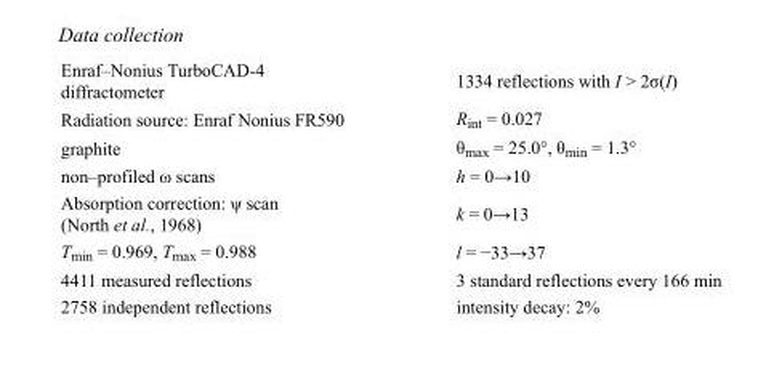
<table><tbody><tr><td>Enraf–Nonius TurboCAD-4 diffractometer</td><td>1334 reflections with I &gt; 2σ(I)</td></tr><tr><td>Radiation source: Enraf Nonius FR590</td><td>R<sub>int</sub> = 0.027</td></tr><tr><td>graphite</td><td>θ<sub>max</sub> = 25.0°, θ<sub>min</sub> = 1.3°</td></tr><tr><td>non–profiled ω scans</td><td>h = 0→10</td></tr><tr><td>Absorption correction: ψ scan (North et al., 1968)</td><td>k = 0→13</td></tr><tr><td>T<sub>min</sub> = 0.969, T<sub>max</sub> = 0.988</td><td>l = −33→37</td></tr><tr><td>4411 measured reflections</td><td>3 standard reflections every 166 min</td></tr><tr><td>2758 independent reflections</td><td>intensity decay: 2%</td></tr></tbody></table>